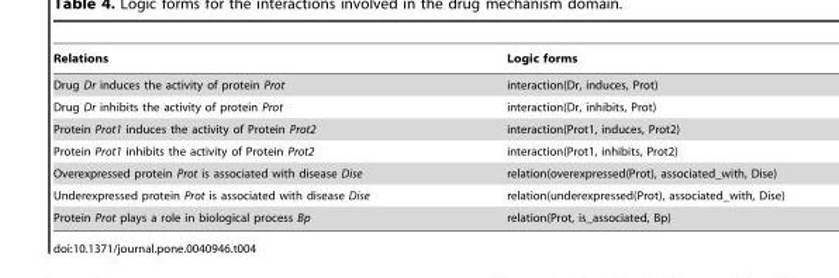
<table><thead><tr><td>Relations</td><td>Logic forms</td></tr></thead><tbody><tr><td>Drug Dr induces the activity of protein Prot</td><td>interaction(Dr, induces, Prot)</td></tr><tr><td>Drug Dr inhibits the activity of protein Prot</td><td>interaction(Dr, inhibits, Prot)</td></tr><tr><td>Protein Prot1 induces the activity of Protein Prot2</td><td>interaction(Prot1, induces, Prot2)</td></tr><tr><td>Protein Prot1 inhibits the activity of Protein Prot2</td><td>interaction(Prot1, inhibits, Prot2)</td></tr><tr><td>Overexpressed protein Prot is associated with disease Dise</td><td>relation(overexpressed(Prot), associated_with, Dise)</td></tr><tr><td>Underexpressed protein Prot is associated with disease Dise</td><td>relation(underexpressed(Prot), associated_with, Dise)</td></tr><tr><td>Protein Prot plays a role in biological process Bp</td><td>relation(Prot, is_associated, Bp)</td></tr></tbody></table>